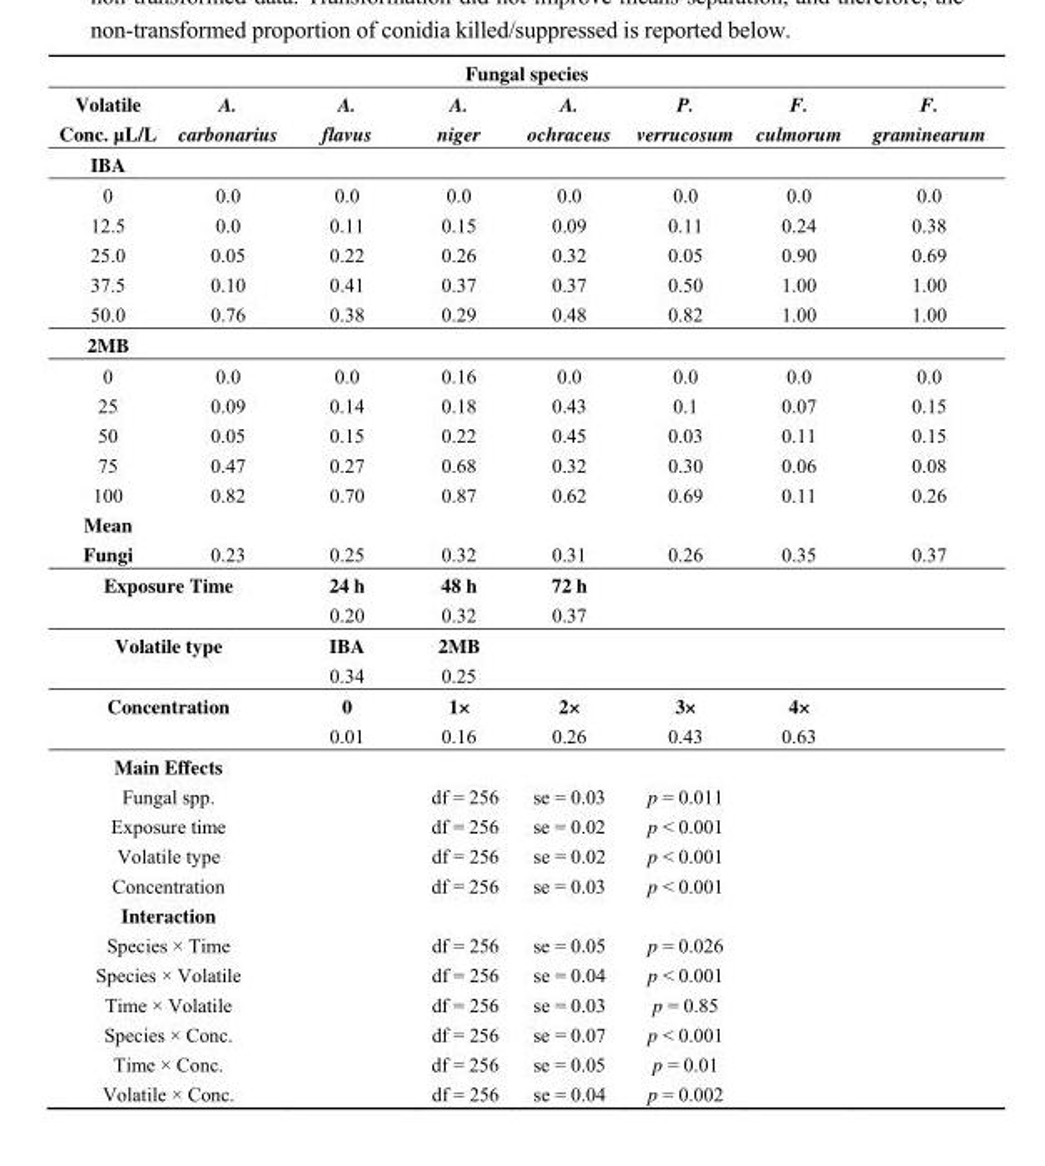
<table><thead><tr><td colspan="8">Fungal species</td></tr><tr><td>Volatile Conc. µL/L</td><td>A. carbonarius</td><td>A. flavus</td><td>A. niger</td><td>A. ochraceus</td><td>P. verrucosum</td><td>F. culmorum</td><td>F. graminearum</td></tr></thead><tbody><tr><td colspan="8">IBA</td></tr><tr><td>0</td><td>0.0</td><td>0.0</td><td>0.0</td><td>0.0</td><td>0.0</td><td>0.0</td><td>0.0</td></tr><tr><td>12.5</td><td>0.0</td><td>0.11</td><td>0.15</td><td>0.09</td><td>0.11</td><td>0.24</td><td>0.38</td></tr><tr><td>25.0</td><td>0.05</td><td>0.22</td><td>0.26</td><td>0.32</td><td>0.05</td><td>0.90</td><td>0.69</td></tr><tr><td>37.5</td><td>0.10</td><td>0.41</td><td>0.37</td><td>0.37</td><td>0.50</td><td>1.00</td><td>1.00</td></tr><tr><td>50.0</td><td>0.76</td><td>0.38</td><td>0.29</td><td>0.48</td><td>0.82</td><td>1.00</td><td>1.00</td></tr><tr><td colspan="8">2MB</td></tr><tr><td>0</td><td>0.0</td><td>0.0</td><td>0.16</td><td>0.0</td><td>0.0</td><td>0.0</td><td>0.0</td></tr><tr><td>25</td><td>0.09</td><td>0.14</td><td>0.18</td><td>0.43</td><td>0.1</td><td>0.07</td><td>0.15</td></tr><tr><td>50</td><td>0.05</td><td>0.15</td><td>0.22</td><td>0.45</td><td>0.03</td><td>0.11</td><td>0.15</td></tr><tr><td>75</td><td>0.47</td><td>0.27</td><td>0.68</td><td>0.32</td><td>0.30</td><td>0.06</td><td>0.08</td></tr><tr><td>100</td><td>0.82</td><td>0.70</td><td>0.87</td><td>0.62</td><td>0.69</td><td>0.11</td><td>0.26</td></tr><tr><td colspan="8">Mean</td></tr><tr><td>Fungi</td><td>0.23</td><td>0.25</td><td>0.32</td><td>0.31</td><td>0.26</td><td>0.35</td><td>0.37</td></tr><tr><td rowspan="2" colspan="2">Exposure Time</td><td>24 h</td><td>48 h</td><td>72 h</td><td></td><td></td><td></td></tr><tr><td>0.20</td><td>0.32</td><td>0.37</td><td></td><td></td><td></td></tr><tr><td rowspan="2" colspan="2">Volatile type</td><td>IBA</td><td>2MB</td><td></td><td></td><td></td><td></td></tr><tr><td>0.34</td><td>0.25</td><td></td><td></td><td></td><td></td></tr><tr><td rowspan="2" colspan="2">Concentration</td><td>0</td><td>1×</td><td>2×</td><td>3×</td><td>4×</td><td></td></tr><tr><td>0.01</td><td>0.16</td><td>0.26</td><td>0.43</td><td>0.63</td><td></td></tr><tr><td colspan="8">Main Effects</td></tr><tr><td colspan="2">Fungal spp.</td><td></td><td>df = 256</td><td>se = 0.03</td><td>p = 0.011</td><td></td><td></td></tr><tr><td colspan="2">Exposure time</td><td></td><td>df = 256</td><td>se = 0.02</td><td>p &lt; 0.001</td><td></td><td></td></tr><tr><td colspan="2">Volatile type</td><td></td><td>df = 256</td><td>se = 0.02</td><td>p &lt; 0.001</td><td></td><td></td></tr><tr><td colspan="2">Concentration</td><td></td><td>df = 256</td><td>se = 0.03</td><td>p &lt; 0.001</td><td></td><td></td></tr><tr><td colspan="8">Interaction</td></tr><tr><td colspan="2">Species × Time</td><td></td><td>df = 256</td><td>se = 0.05</td><td>p = 0.026</td><td></td><td></td></tr><tr><td colspan="2">Species × Volatile</td><td></td><td>df = 256</td><td>se = 0.04</td><td>p &lt; 0.001</td><td></td><td></td></tr><tr><td colspan="2">Time × Volatile</td><td></td><td>df = 256</td><td>se = 0.03</td><td>p = 0.85</td><td></td><td></td></tr><tr><td colspan="2">Species × Conc.</td><td></td><td>df = 256</td><td>se = 0.07</td><td>p &lt; 0.001</td><td></td><td></td></tr><tr><td colspan="2">Time × Conc.</td><td></td><td>df = 256</td><td>se = 0.05</td><td>p = 0.01</td><td></td><td></td></tr><tr><td colspan="2">Volatile × Conc.</td><td></td><td>df = 256</td><td>se = 0.04</td><td>p = 0.002</td><td></td><td></td></tr></tbody></table>